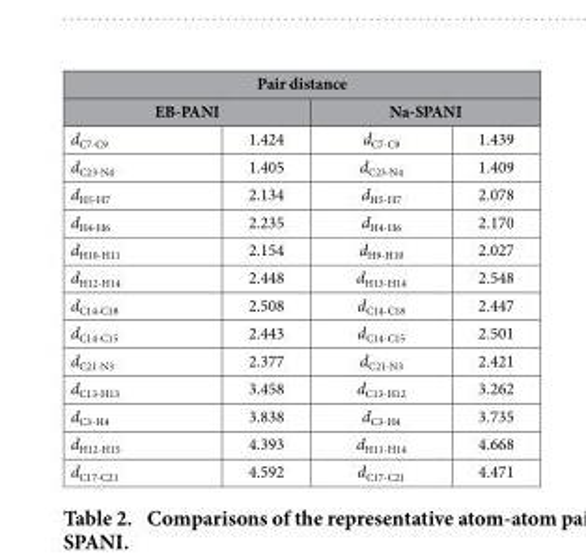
<table><thead><tr><td colspan="4">Pair distance</td></tr><tr><td colspan="2">EB-PANI</td><td colspan="2">Na-SPANI</td></tr><tr><td>d<sub>C7-C9</sub></td><td>1.424</td><td>d<sub>C7-C9</sub></td><td>1.439</td></tr></thead><tbody><tr><td>d<sub>C23-N4</sub></td><td>1.405</td><td>d<sub>C23-N4</sub></td><td>1.409</td></tr><tr><td>d<sub>H5-H7</sub></td><td>2.134</td><td>d<sub>H5-H7</sub></td><td>2.078</td></tr><tr><td>d<sub>H4-H6</sub></td><td>2.235</td><td>d<sub>H4-H6</sub></td><td>2.170</td></tr><tr><td>d<sub>H10-H11</sub></td><td>2.154</td><td>d<sub>H9-H10</sub></td><td>2.027</td></tr><tr><td>d<sub>H12-H14</sub></td><td>2.448</td><td>d<sub>H13-H14</sub></td><td>2.548</td></tr><tr><td>d<sub>C14-C18</sub></td><td>2.508</td><td>d<sub>C14-C18</sub></td><td>2.447</td></tr><tr><td>d<sub>C14-C15</sub></td><td>2.443</td><td>d<sub>C14-C15</sub></td><td>2.501</td></tr><tr><td>d<sub>C21-N3</sub></td><td>2.377</td><td>d<sub>C21-N3</sub></td><td>2.421</td></tr><tr><td>d<sub>C13-H13</sub></td><td>3.458</td><td>d<sub>C13-H12</sub></td><td>3.262</td></tr><tr><td>d<sub>C3-H4</sub></td><td>3.838</td><td>d<sub>C3-H4</sub></td><td>3.735</td></tr><tr><td>d<sub>H12-H15</sub></td><td>4.393</td><td>d<sub>H11-H14</sub></td><td>4.668</td></tr><tr><td>d<sub>C17-C21</sub></td><td>4.592</td><td>d<sub>C17-C21</sub></td><td>4.471</td></tr></tbody></table>